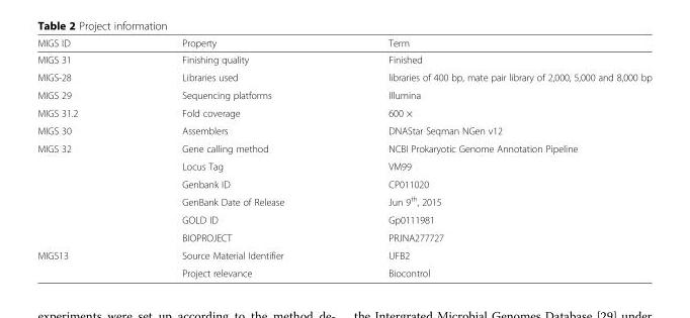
<table><thead><tr><td>MIGS ID</td><td>Property</td><td>Term</td></tr></thead><tbody><tr><td>MIGS 31</td><td>Finishing quality</td><td>Finished</td></tr><tr><td>MIGS-28</td><td>Libraries used</td><td>libraries of 400 bp, mate pair library of 2,000, 5,000 and 8,000 bp</td></tr><tr><td>MIGS 29</td><td>Sequencing platforms</td><td>Illumina</td></tr><tr><td>MIGS 31.2</td><td>Fold coverage</td><td>600 ×</td></tr><tr><td>MIGS 30</td><td>Assemblers</td><td>DNAStar Seqman NGen v12</td></tr><tr><td rowspan="6">MIGS 32</td><td>Gene calling method</td><td>NCBI Prokaryotic Genome Annotation Pipeline</td></tr><tr><td>Locus Tag</td><td>VM99</td></tr><tr><td>Genbank ID</td><td>CP011020</td></tr><tr><td>GenBank Date of Release</td><td>Jun 9<sup>th</sup>, 2015</td></tr><tr><td>GOLD ID</td><td>Gp0111981</td></tr><tr><td>BIOPROJECT</td><td>PRJNA277727</td></tr><tr><td rowspan="2">MIGS13</td><td>Source Material Identifier</td><td>UFB2</td></tr><tr><td>Project relevance</td><td>Biocontrol</td></tr></tbody></table>